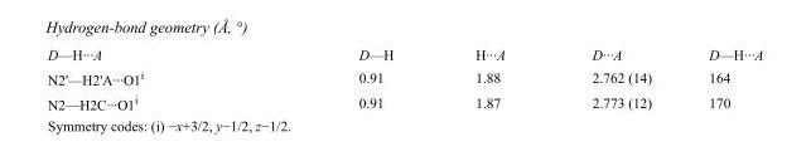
<table><tbody><tr><td>D—H···A</td><td>D—H</td><td>H···A</td><td>D···A</td><td>D—H···A</td></tr><tr><td>N2&#x27;—H2&#x27;A···O1<sup>i</sup></td><td>0.91</td><td>1.88</td><td>2.762 (14)</td><td>164</td></tr><tr><td>N2—H2C···O1<sup>i</sup></td><td>0.91</td><td>1.87</td><td>2.773 (12)</td><td>170</td></tr></tbody></table>